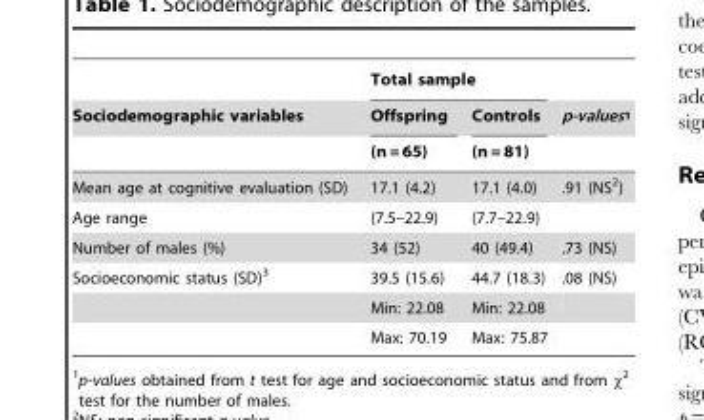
<table><thead><tr><td rowspan="3">Sociodemographic variables</td><td colspan="2">Total sample</td><td rowspan="3">p-values1</td></tr><tr><td rowspan="2">Offspring (n = 65)</td><td rowspan="2">Controls (n = 81)</td></tr><tr></tr></thead><tbody><tr><td>Mean age at cognitive evaluation (SD)</td><td>17.1 (4.2)</td><td>17.1 (4.0)</td><td>.91 (NS<sup>2</sup>)</td></tr><tr><td>Age range</td><td>(7.5–22.9)</td><td>(7.7–22.9)</td><td></td></tr><tr><td>Number of males (%)</td><td>34 (52)</td><td>40 (49.4)</td><td>.73 (NS)</td></tr><tr><td rowspan="3">Socioeconomic status (SD)<sup>3</sup></td><td>39.5 (15.6)</td><td>44.7 (18.3)</td><td>.08 (NS)</td></tr><tr><td>Min: 22.08</td><td>Min: 22.08</td><td></td></tr><tr><td>Max: 70.19</td><td>Max: 75.87</td><td></td></tr></tbody></table>